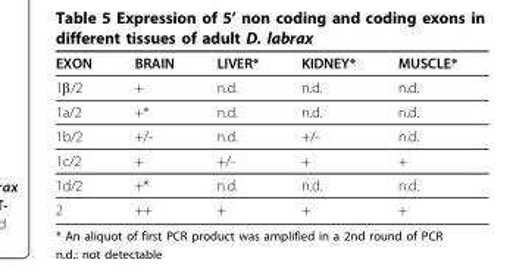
<table><thead><tr><td>EXON</td><td>BRAIN</td><td>LIVER*</td><td>KIDNEY*</td><td>MUSCLE*</td></tr></thead><tbody><tr><td>1β/2</td><td>+</td><td>n.d.</td><td>n.d.</td><td>n.d.</td></tr><tr><td>1a/2</td><td>+*</td><td>n.d.</td><td>n.d.</td><td>n.d.</td></tr><tr><td>1b/2</td><td>+/-</td><td>n.d.</td><td>+/-</td><td>n.d.</td></tr><tr><td>1c/2</td><td>+</td><td>+/-</td><td>+</td><td>+</td></tr><tr><td>1d/2</td><td>+*</td><td>n.d.</td><td>n.d.</td><td>n.d.</td></tr><tr><td>2</td><td>++</td><td>+</td><td>+</td><td>+</td></tr></tbody></table>